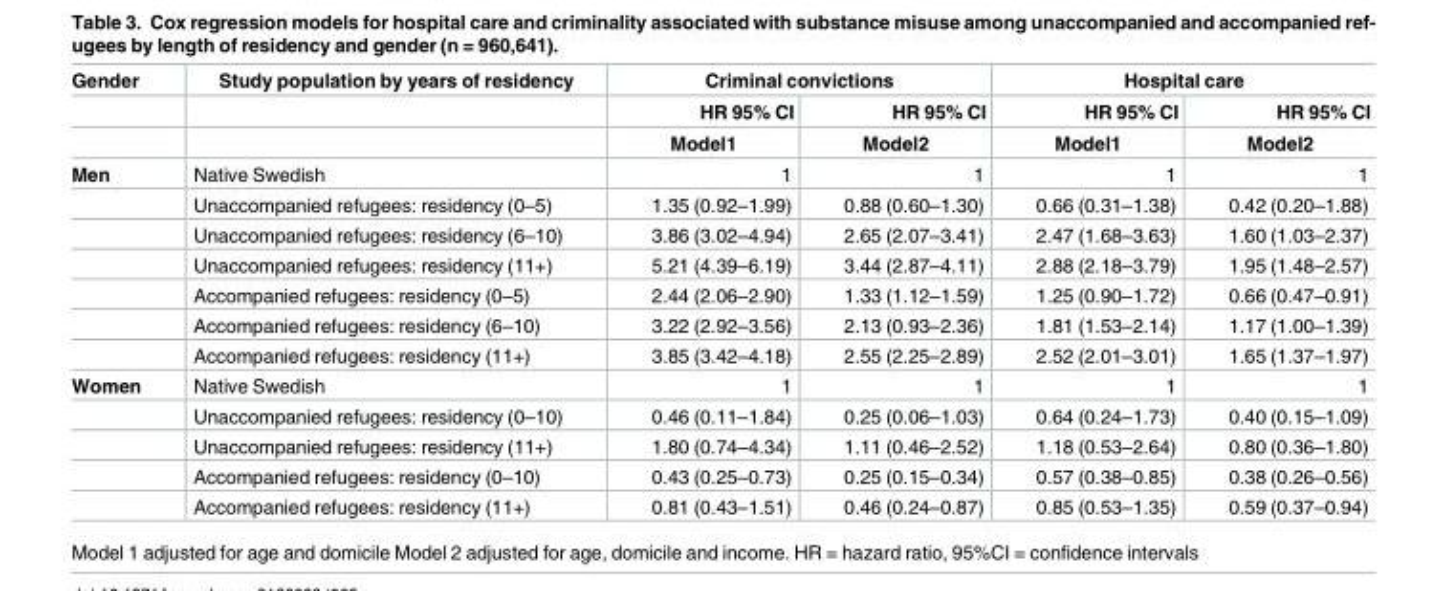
<table><thead><tr><td rowspan="3">Gender</td><td rowspan="3">Study population by years of residency</td><td colspan="2">Criminal convictions</td><td colspan="2">Hospital care</td></tr><tr><td rowspan="2">HR 95% CI Model1</td><td rowspan="2">HR 95% CI Model2</td><td rowspan="2">HR 95% CI Model1</td><td rowspan="2">HR 95% CI Model2</td></tr><tr></tr></thead><tbody><tr><td rowspan="7">Men</td><td>Native Swedish</td><td>1</td><td>1</td><td>1</td><td>1</td></tr><tr><td>Unaccompanied refugees: residency (0–5)</td><td>1.35 (0.92–1.99)</td><td>0.88 (0.60–1.30)</td><td>0.66 (0.31–1.38)</td><td>0.42 (0.20–1.88)</td></tr><tr><td>Unaccompanied refugees: residency (6–10)</td><td>3.86 (3.02–4.94)</td><td>2.65 (2.07–3.41)</td><td>2.47 (1.68–3.63)</td><td>1.60 (1.03–2.37)</td></tr><tr><td>Unaccompanied refugees: residency (11+)</td><td>5.21 (4.39–6.19)</td><td>3.44 (2.87–4.11)</td><td>2.88 (2.18–3.79)</td><td>1.95 (1.48–2.57)</td></tr><tr><td>Accompanied refugees: residency (0–5)</td><td>2.44 (2.06–2.90)</td><td>1.33 (1.12–1.59)</td><td>1.25 (0.90–1.72)</td><td>0.66 (0.47–0.91)</td></tr><tr><td>Accompanied refugees: residency (6–10)</td><td>3.22 (2.92–3.56)</td><td>2.13 (0.93–2.36)</td><td>1.81 (1.53–2.14)</td><td>1.17 (1.00–1.39)</td></tr><tr><td>Accompanied refugees: residency (11+)</td><td>3.85 (3.42–4.18)</td><td>2.55 (2.25–2.89)</td><td>2.52 (2.01–3.01)</td><td>1.65 (1.37–1.97)</td></tr><tr><td rowspan="5">Women</td><td>Native Swedish</td><td>1</td><td>1</td><td>1</td><td>1</td></tr><tr><td>Unaccompanied refugees: residency (0–10)</td><td>0.46 (0.11–1.84)</td><td>0.25 (0.06–1.03)</td><td>0.64 (0.24–1.73)</td><td>0.40 (0.15–1.09)</td></tr><tr><td>Unaccompanied refugees: residency (11+)</td><td>1.80 (0.74–4.34)</td><td>1.11 (0.46–2.52)</td><td>1.18 (0.53–2.64)</td><td>0.80 (0.36–1.80)</td></tr><tr><td>Accompanied refugees: residency (0–10)</td><td>0.43 (0.25–0.73)</td><td>0.25 (0.15–0.34)</td><td>0.57 (0.38–0.85)</td><td>0.38 (0.26–0.56)</td></tr><tr><td>Accompanied refugees: residency (11+)</td><td>0.81 (0.43–1.51)</td><td>0.46 (0.24–0.87)</td><td>0.85 (0.53–1.35)</td><td>0.59 (0.37–0.94)</td></tr></tbody></table>